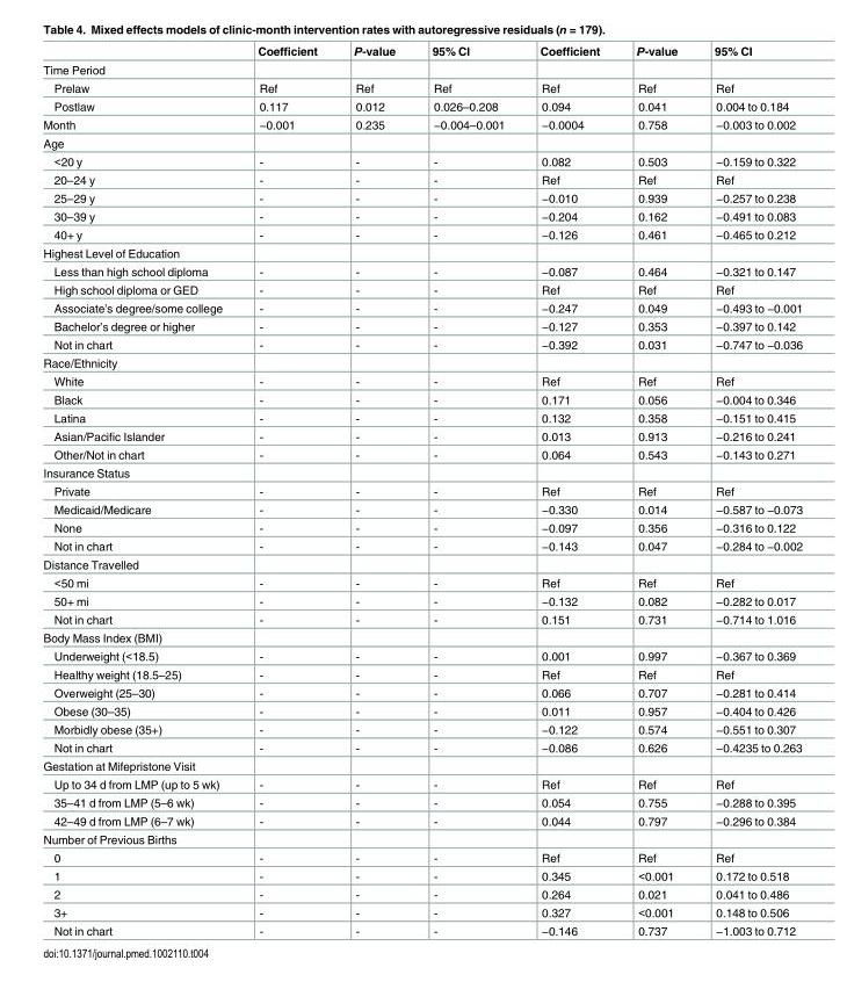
<table><thead><tr><td></td><td>Coefficient</td><td>P-value</td><td>95% CI</td><td>Coefficient</td><td>P-value</td><td>95% CI</td></tr></thead><tbody><tr><td colspan="7">Time Period</td></tr><tr><td>Prelaw</td><td>Ref</td><td>Ref</td><td>Ref</td><td>Ref</td><td>Ref</td><td>Ref</td></tr><tr><td>Postlaw</td><td>0.117</td><td>0.012</td><td>0.026–0.208</td><td>0.094</td><td>0.041</td><td>0.004 to 0.184</td></tr><tr><td>Month</td><td>−0.001</td><td>0.235</td><td>−0.004–0.001</td><td>−0.0004</td><td>0.758</td><td>−0.003 to 0.002</td></tr><tr><td colspan="7">Age</td></tr><tr><td>&lt;20 y</td><td>-</td><td>-</td><td>-</td><td>0.082</td><td>0.503</td><td>−0.159 to 0.322</td></tr><tr><td>20–24 y</td><td>-</td><td>-</td><td>-</td><td>Ref</td><td>Ref</td><td>Ref</td></tr><tr><td>25–29 y</td><td>-</td><td>-</td><td>-</td><td>−0.010</td><td>0.939</td><td>−0.257 to 0.238</td></tr><tr><td>30–39 y</td><td>-</td><td>-</td><td>-</td><td>−0.204</td><td>0.162</td><td>−0.491 to 0.083</td></tr><tr><td>40+ y</td><td>-</td><td>-</td><td>-</td><td>−0.126</td><td>0.461</td><td>−0.465 to 0.212</td></tr><tr><td colspan="7">Highest Level of Education</td></tr><tr><td>Less than high school diploma</td><td>-</td><td>-</td><td>-</td><td>−0.087</td><td>0.464</td><td>−0.321 to 0.147</td></tr><tr><td>High school diploma or GED</td><td>-</td><td>-</td><td>-</td><td>Ref</td><td>Ref</td><td>Ref</td></tr><tr><td>Associate’s degree/some college</td><td>-</td><td>-</td><td>-</td><td>−0.247</td><td>0.049</td><td>−0.493 to −0.001</td></tr><tr><td>Bachelor’s degree or higher</td><td>-</td><td>-</td><td>-</td><td>−0.127</td><td>0.353</td><td>−0.397 to 0.142</td></tr><tr><td>Not in chart</td><td>-</td><td>-</td><td>-</td><td>−0.392</td><td>0.031</td><td>−0.747 to −0.036</td></tr><tr><td colspan="7">Race/Ethnicity</td></tr><tr><td>White</td><td>-</td><td>-</td><td>-</td><td>Ref</td><td>Ref</td><td>Ref</td></tr><tr><td>Black</td><td>-</td><td>-</td><td>-</td><td>0.171</td><td>0.056</td><td>−0.004 to 0.346</td></tr><tr><td>Latina</td><td>-</td><td>-</td><td>-</td><td>0.132</td><td>0.358</td><td>−0.151 to 0.415</td></tr><tr><td>Asian/Pacific Islander</td><td>-</td><td>-</td><td>-</td><td>0.013</td><td>0.913</td><td>−0.216 to 0.241</td></tr><tr><td>Other/Not in chart</td><td>-</td><td>-</td><td>-</td><td>0.064</td><td>0.543</td><td>−0.143 to 0.271</td></tr><tr><td colspan="7">Insurance Status</td></tr><tr><td>Private</td><td>-</td><td>-</td><td>-</td><td>Ref</td><td>Ref</td><td>Ref</td></tr><tr><td>Medicaid/Medicare</td><td>-</td><td>-</td><td>-</td><td>−0.330</td><td>0.014</td><td>−0.587 to −0.073</td></tr><tr><td>None</td><td>-</td><td>-</td><td>-</td><td>−0.097</td><td>0.356</td><td>−0.316 to 0.122</td></tr><tr><td>Not in chart</td><td>-</td><td>-</td><td>-</td><td>−0.143</td><td>0.047</td><td>−0.284 to −0.002</td></tr><tr><td colspan="7">Distance Travelled</td></tr><tr><td>&lt;50 mi</td><td>-</td><td>-</td><td>-</td><td>Ref</td><td>Ref</td><td>Ref</td></tr><tr><td>50+ mi</td><td>-</td><td>-</td><td>-</td><td>−0.132</td><td>0.082</td><td>−0.282 to 0.017</td></tr><tr><td>Not in chart</td><td>-</td><td>-</td><td>-</td><td>0.151</td><td>0.731</td><td>−0.714 to 1.016</td></tr><tr><td colspan="7">Body Mass Index (BMI)</td></tr><tr><td>Underweight (&lt;18.5)</td><td>-</td><td>-</td><td>-</td><td>0.001</td><td>0.997</td><td>−0.367 to 0.369</td></tr><tr><td>Healthy weight (18.5–25)</td><td>-</td><td>-</td><td>-</td><td>Ref</td><td>Ref</td><td>Ref</td></tr><tr><td>Overweight (25–30)</td><td>-</td><td>-</td><td>-</td><td>0.066</td><td>0.707</td><td>−0.281 to 0.414</td></tr><tr><td>Obese (30–35)</td><td>-</td><td>-</td><td>-</td><td>0.011</td><td>0.957</td><td>−0.404 to 0.426</td></tr><tr><td>Morbidly obese (35+)</td><td>-</td><td>-</td><td>-</td><td>−0.122</td><td>0.574</td><td>−0.551 to 0.307</td></tr><tr><td>Not in chart</td><td>-</td><td>-</td><td>-</td><td>−0.086</td><td>0.626</td><td>−0.4235 to 0.263</td></tr><tr><td colspan="7">Gestation at Mifepristone Visit</td></tr><tr><td>Up to 34 d from LMP (up to 5 wk)</td><td>-</td><td>-</td><td>-</td><td>Ref</td><td>Ref</td><td>Ref</td></tr><tr><td>35–41 d from LMP (5–6 wk)</td><td>-</td><td>-</td><td>-</td><td>0.054</td><td>0.755</td><td>−0.288 to 0.395</td></tr><tr><td>42–49 d from LMP (6–7 wk)</td><td>-</td><td>-</td><td>-</td><td>0.044</td><td>0.797</td><td>−0.296 to 0.384</td></tr><tr><td colspan="7">Number of Previous Births</td></tr><tr><td>0</td><td>-</td><td>-</td><td>-</td><td>Ref</td><td>Ref</td><td>Ref</td></tr><tr><td>1</td><td>-</td><td>-</td><td>-</td><td>0.345</td><td>&lt;0.001</td><td>0.172 to 0.518</td></tr><tr><td>2</td><td>-</td><td>-</td><td>-</td><td>0.264</td><td>0.021</td><td>0.041 to 0.486</td></tr><tr><td>3+</td><td>-</td><td>-</td><td>-</td><td>0.327</td><td>&lt;0.001</td><td>0.148 to 0.506</td></tr><tr><td>Not in chart</td><td>-</td><td>-</td><td>-</td><td>−0.146</td><td>0.737</td><td>−1.003 to 0.712</td></tr></tbody></table>